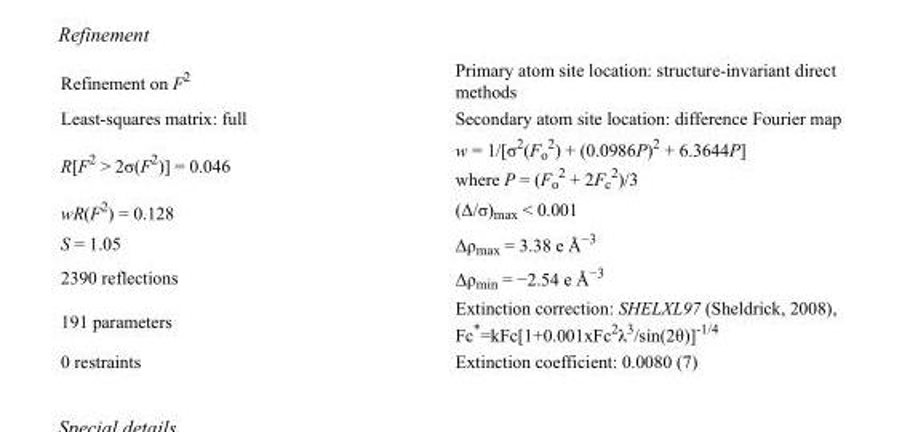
<table><tbody><tr><td>Refinement on F<sup>2</sup></td><td>Primary atom site location: structure-invariant direct methods</td></tr><tr><td>Least-squares matrix: full</td><td>Secondary atom site location: difference Fourier map</td></tr><tr><td>R[F<sup>2</sup> &gt; 2σ(F<sup>2</sup>)] = 0.046</td><td>w = 1/[σ<sup>2</sup>(F<sub>o</sub> <sup>2</sup>) + (0.0986P)<sup>2</sup> + 6.3644P] where P = (F<sub>o</sub> <sup>2</sup> + 2F<sub>c</sub> <sup>2</sup>)/3</td></tr><tr><td>wR(F<sup>2</sup>) = 0.128</td><td>(Δ/σ)<sub>max</sub> &lt; 0.001</td></tr><tr><td>S = 1.05</td><td>Δρ<sub>max</sub> = 3.38 e Å<sup>−3</sup></td></tr><tr><td>2390 reflections</td><td>Δρ<sub>min</sub> = −2.54 e Å<sup>−3</sup></td></tr><tr><td>191 parameters</td><td>Extinction correction: SHELXL97 (Sheldrick, 2008), Fc*=kFc[1+0.001xFc<sup>2</sup>λ<sup>3</sup>/sin(2θ)]<sup>-1/4</sup></td></tr><tr><td>0 restraints</td><td>Extinction coefficient: 0.0080 (7)</td></tr></tbody></table>